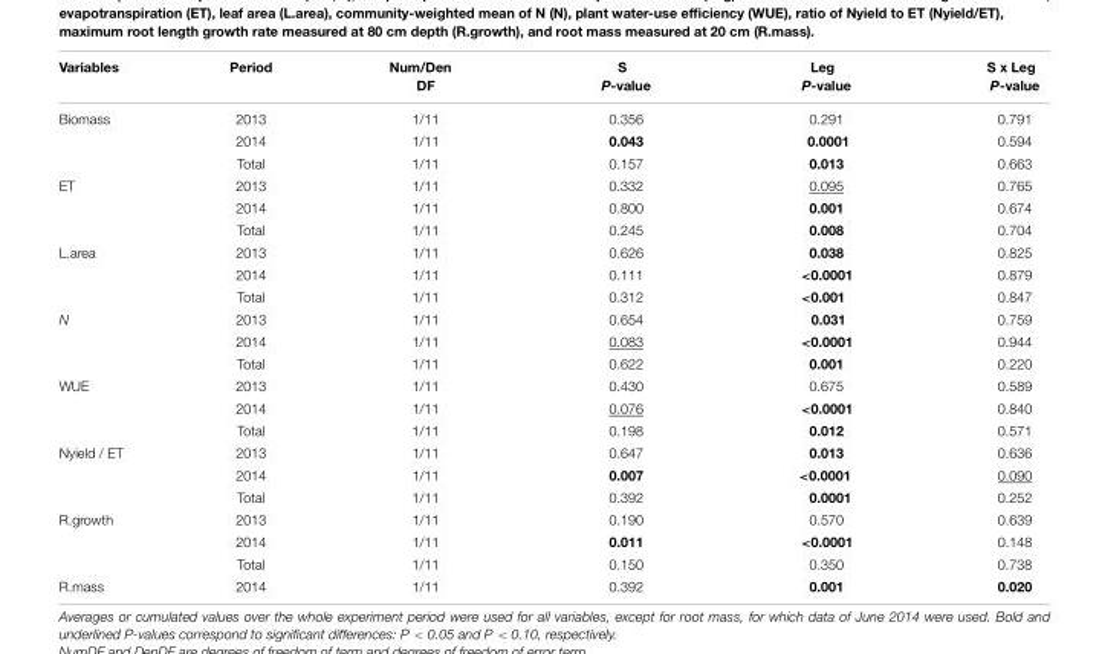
<table><thead><tr><td>Variables</td><td>Period</td><td>Num/Den DF</td><td>S P-value</td><td>Leg P-value</td><td>S x Leg P-value</td></tr></thead><tbody><tr><td rowspan="3">Biomass</td><td>2013</td><td>1/11</td><td>0.356</td><td>0.291</td><td>0.791</td></tr><tr><td>2014</td><td>1/11</td><td>0.043</td><td>0.0001</td><td>0.594</td></tr><tr><td>Total</td><td>1/11</td><td>0.157</td><td>0.013</td><td>0.663</td></tr><tr><td rowspan="3">ET</td><td>2013</td><td>1/11</td><td>0.332</td><td>0.095</td><td>0.765</td></tr><tr><td>2014</td><td>1/11</td><td>0.800</td><td>0.001</td><td>0.674</td></tr><tr><td>Total</td><td>1/11</td><td>0.245</td><td>0.008</td><td>0.704</td></tr><tr><td rowspan="3">L.area</td><td>2013</td><td>1/11</td><td>0.626</td><td>0.038</td><td>0.825</td></tr><tr><td>2014</td><td>1/11</td><td>0.111</td><td>&lt;0.0001</td><td>0.879</td></tr><tr><td>Total</td><td>1/11</td><td>0.312</td><td>&lt;0.001</td><td>0.847</td></tr><tr><td rowspan="3">N</td><td>2013</td><td>1/11</td><td>0.654</td><td>0.031</td><td>0.759</td></tr><tr><td>2014</td><td>1/11</td><td>0.083</td><td>&lt;0.0001</td><td>0.944</td></tr><tr><td>Total</td><td>1/11</td><td>0.622</td><td>0.001</td><td>0.220</td></tr><tr><td rowspan="3">WUE</td><td>2013</td><td>1/11</td><td>0.430</td><td>0.675</td><td>0.589</td></tr><tr><td>2014</td><td>1/11</td><td>0.076</td><td>&lt;0.0001</td><td>0.840</td></tr><tr><td>Total</td><td>1/11</td><td>0.198</td><td>0.012</td><td>0.571</td></tr><tr><td rowspan="3">Nyield / ET</td><td>2013</td><td>1/11</td><td>0.647</td><td>0.013</td><td>0.636</td></tr><tr><td>2014</td><td>1/11</td><td>0.007</td><td>&lt;0.0001</td><td>0.090</td></tr><tr><td>Total</td><td>1/11</td><td>0.392</td><td>0.0001</td><td>0.252</td></tr><tr><td rowspan="3">R.growth</td><td>2013</td><td>1/11</td><td>0.190</td><td>0.570</td><td>0.639</td></tr><tr><td>2014</td><td>1/11</td><td>0.011</td><td>&lt;0.0001</td><td>0.148</td></tr><tr><td>Total</td><td>1/11</td><td>0.150</td><td>0.350</td><td>0.738</td></tr><tr><td>R.mass</td><td>2014</td><td>1/11</td><td>0.392</td><td>0.001</td><td>0.020</td></tr></tbody></table>